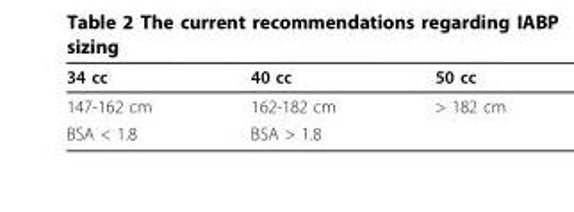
<table><thead><tr><td>34 cc</td><td>40 cc</td><td>50 cc</td></tr></thead><tbody><tr><td>147-162 cm</td><td>162-182 cm</td><td>&gt; 182 cm</td></tr><tr><td>BSA &lt; 1.8</td><td>BSA &gt; 1.8</td><td></td></tr></tbody></table>